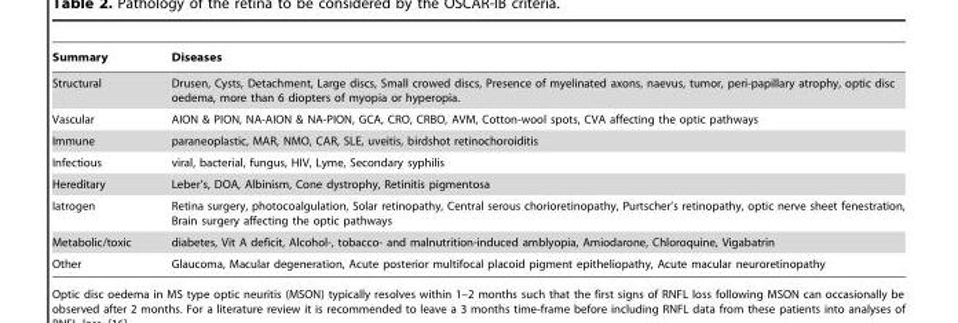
<table><thead><tr><td>Summary</td><td>Diseases</td></tr></thead><tbody><tr><td>Structural</td><td>Drusen, Cysts, Detachment, Large discs, Small crowed discs, Presence of myelinated axons, naevus, tumor, peri-papillary atrophy, optic disc oedema, more than 6 diopters of myopia or hyperopia.</td></tr><tr><td>Vascular</td><td>AION &amp; PION, NA-AION &amp; NA-PION, GCA, CRO, CRBO, AVM, Cotton-wool spots, CVA affecting the optic pathways</td></tr><tr><td>Immune</td><td>paraneoplastic, MAR, NMO, CAR, SLE, uveitis, birdshot retinochoroiditis</td></tr><tr><td>Infectious</td><td>viral, bacterial, fungus, HIV, Lyme, Secondary syphilis</td></tr><tr><td>Hereditary</td><td>Leber’s, DOA, Albinism, Cone dystrophy, Retinitis pigmentosa</td></tr><tr><td>Iatrogen</td><td>Retina surgery, photocoalgulation, Solar retinopathy, Central serous chorioretinopathy, Purtscher’s retinopathy, optic nerve sheet fenestration, Brain surgery affecting the optic pathways</td></tr><tr><td>Metabolic/toxic</td><td>diabetes, Vit A deficit, Alcohol-, tobacco- and malnutrition-induced amblyopia, Amiodarone, Chloroquine, Vigabatrin</td></tr><tr><td>Other</td><td>Glaucoma, Macular degeneration, Acute posterior multifocal placoid pigment epitheliopathy, Acute macular neuroretinopathy</td></tr></tbody></table>